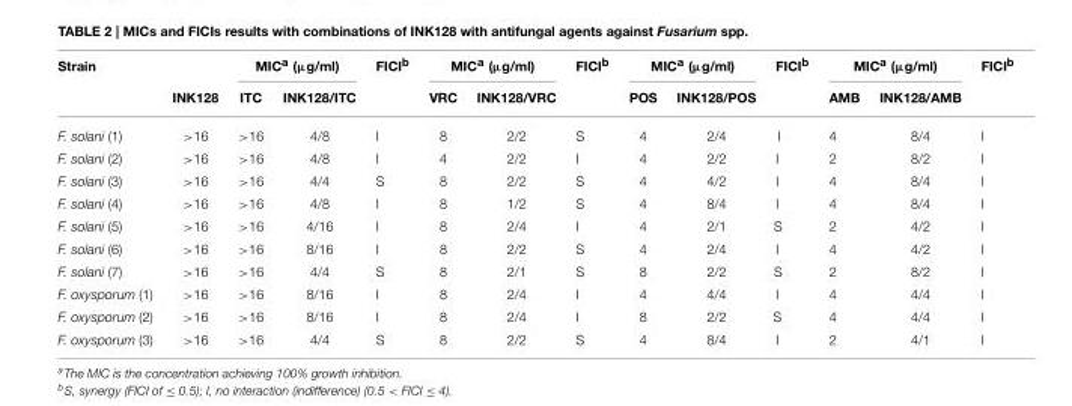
<table><thead><tr><td rowspan="2">Strain</td><td rowspan="2">INK128</td><td colspan="2">MIC<sup>a</sup> (µg/ml)</td><td rowspan="2">FICI<sup>b</sup></td><td colspan="2">MIC<sup>a</sup> (µg/ml)</td><td rowspan="2">FICI<sup>b</sup></td><td colspan="2">MIC<sup>a</sup> (µg/ml)</td><td rowspan="2">FICI<sup>b</sup></td><td colspan="2">MIC<sup>a</sup> (µg/ml)</td><td rowspan="2">FICI<sup>b</sup></td></tr><tr><td>ITC</td><td>INK128/ITC</td><td>VRC</td><td>INK128/VRC</td><td>POS</td><td>INK128/POS</td><td>AMB</td><td>INK128/AMB</td></tr></thead><tbody><tr><td>F. solani (1)</td><td>&gt;16</td><td>&gt;16</td><td>4/8</td><td>I</td><td>8</td><td>2/2</td><td>S</td><td>4</td><td>2/4</td><td>I</td><td>4</td><td>8/4</td><td>I</td></tr><tr><td>F. solani (2)</td><td>&gt;16</td><td>&gt;16</td><td>4/8</td><td>I</td><td>4</td><td>2/2</td><td>I</td><td>4</td><td>2/2</td><td>I</td><td>2</td><td>8/2</td><td>I</td></tr><tr><td>F. solani (3)</td><td>&gt;16</td><td>&gt;16</td><td>4/4</td><td>S</td><td>8</td><td>2/2</td><td>S</td><td>4</td><td>4/2</td><td>I</td><td>4</td><td>8/4</td><td>I</td></tr><tr><td>F. solani (4)</td><td>&gt;16</td><td>&gt;16</td><td>4/8</td><td>I</td><td>8</td><td>1/2</td><td>S</td><td>4</td><td>8/4</td><td>I</td><td>4</td><td>8/4</td><td>I</td></tr><tr><td>F. solani (5)</td><td>&gt;16</td><td>&gt;16</td><td>4/16</td><td>I</td><td>8</td><td>2/4</td><td>I</td><td>4</td><td>2/1</td><td>S</td><td>2</td><td>4/2</td><td>I</td></tr><tr><td>F. solani (6)</td><td>&gt;16</td><td>&gt;16</td><td>8/16</td><td>I</td><td>8</td><td>2/2</td><td>S</td><td>4</td><td>2/4</td><td>I</td><td>4</td><td>4/2</td><td>I</td></tr><tr><td>F. solani (7)</td><td>&gt;16</td><td>&gt;16</td><td>4/4</td><td>S</td><td>8</td><td>2/1</td><td>S</td><td>8</td><td>2/2</td><td>S</td><td>2</td><td>8/2</td><td>I</td></tr><tr><td>F. oxysporum (1)</td><td>&gt;16</td><td>&gt;16</td><td>8/16</td><td>I</td><td>8</td><td>2/4</td><td>I</td><td>4</td><td>4/4</td><td>I</td><td>4</td><td>4/4</td><td>I</td></tr><tr><td>F. oxysporum (2)</td><td>&gt;16</td><td>&gt;16</td><td>8/16</td><td>I</td><td>8</td><td>2/4</td><td>I</td><td>8</td><td>2/2</td><td>S</td><td>4</td><td>4/4</td><td>I</td></tr><tr><td>F. oxysporum (3)</td><td>&gt;16</td><td>&gt;16</td><td>4/4</td><td>S</td><td>8</td><td>2/2</td><td>S</td><td>4</td><td>8/4</td><td>I</td><td>2</td><td>4/1</td><td>I</td></tr></tbody></table>